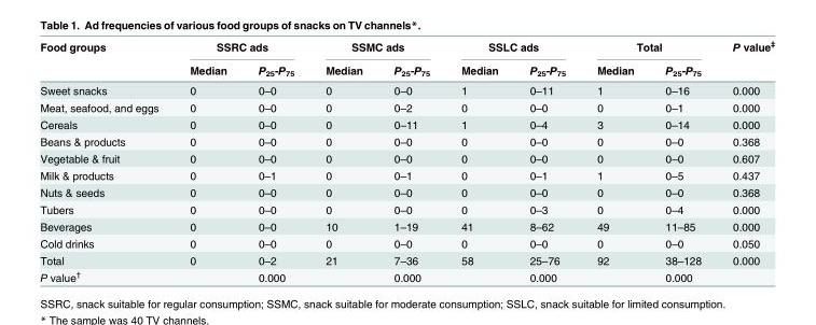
<table><thead><tr><td rowspan="2">Food groups</td><td colspan="2">SSRC ads</td><td colspan="2">SSMC ads</td><td colspan="2">SSLC ads</td><td colspan="2">Total</td><td rowspan="2">P value<sup>‡</sup></td></tr><tr><td>Median</td><td>P<sub>25</sub>-P<sub>75</sub></td><td>Median</td><td>P<sub>25</sub>-P<sub>75</sub></td><td>Median</td><td>P<sub>25</sub>-P<sub>75</sub></td><td>Median</td><td>P<sub>25</sub>-P<sub>75</sub></td></tr></thead><tbody><tr><td>Sweet snacks</td><td>0</td><td>0–0</td><td>0</td><td>0–0</td><td>1</td><td>0–11</td><td>1</td><td>0–16</td><td>0.000</td></tr><tr><td>Meat, seafood, and eggs</td><td>0</td><td>0–0</td><td>0</td><td>0–2</td><td>0</td><td>0–0</td><td>0</td><td>0–1</td><td>0.000</td></tr><tr><td>Cereals</td><td>0</td><td>0–0</td><td>0</td><td>0–11</td><td>1</td><td>0–4</td><td>3</td><td>0–14</td><td>0.000</td></tr><tr><td>Beans &amp; products</td><td>0</td><td>0–0</td><td>0</td><td>0–0</td><td>0</td><td>0–0</td><td>0</td><td>0–0</td><td>0.368</td></tr><tr><td>Vegetable &amp; fruit</td><td>0</td><td>0–0</td><td>0</td><td>0–0</td><td>0</td><td>0–0</td><td>0</td><td>0–0</td><td>0.607</td></tr><tr><td>Milk &amp; products</td><td>0</td><td>0–1</td><td>0</td><td>0–1</td><td>0</td><td>0–1</td><td>1</td><td>0–5</td><td>0.437</td></tr><tr><td>Nuts &amp; seeds</td><td>0</td><td>0–0</td><td>0</td><td>0–0</td><td>0</td><td>0–0</td><td>0</td><td>0–0</td><td>0.368</td></tr><tr><td>Tubers</td><td>0</td><td>0–0</td><td>0</td><td>0–0</td><td>0</td><td>0–3</td><td>0</td><td>0–4</td><td>0.000</td></tr><tr><td>Beverages</td><td>0</td><td>0–0</td><td>10</td><td>1–19</td><td>41</td><td>8–62</td><td>49</td><td>11–85</td><td>0.000</td></tr><tr><td>Cold drinks</td><td>0</td><td>0–0</td><td>0</td><td>0–0</td><td>0</td><td>0–0</td><td>0</td><td>0–0</td><td>0.050</td></tr><tr><td>Total</td><td>0</td><td>0–2</td><td>21</td><td>7–36</td><td>58</td><td>25–76</td><td>92</td><td>38–128</td><td>0.000</td></tr><tr><td>P value<sup>†</sup></td><td></td><td>0.000</td><td></td><td>0.000</td><td></td><td>0.000</td><td></td><td>0.000</td><td></td></tr></tbody></table>